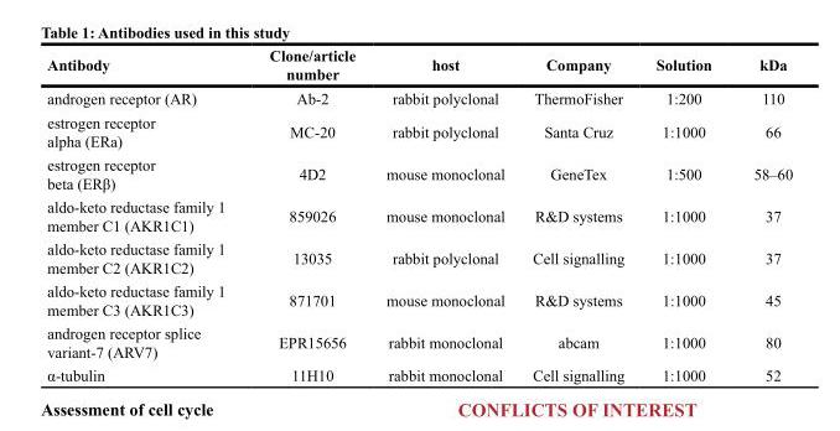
<table><thead><tr><td>Antibody</td><td>Clone/article number</td><td>host</td><td>Company</td><td>Solution</td><td>kDa</td></tr></thead><tbody><tr><td>androgen receptor (AR)</td><td>Ab-2</td><td>rabbit polyclonal</td><td>ThermoFisher</td><td>1:200</td><td>110</td></tr><tr><td>estrogen receptor alpha (ERa)</td><td>MC-20</td><td>rabbit polyclonal</td><td>Santa Cruz</td><td>1:1000</td><td>66</td></tr><tr><td>estrogen receptor beta (ERβ)</td><td>4D2</td><td>mouse monoclonal</td><td>GeneTex</td><td>1:500</td><td>58–60</td></tr><tr><td>aldo-keto reductase family 1 member C1 (AKR1C1)</td><td>859026</td><td>mouse monoclonal</td><td>R&amp;D systems</td><td>1:1000</td><td>37</td></tr><tr><td>aldo-keto reductase family 1 member C2 (AKR1C2)</td><td>13035</td><td>rabbit polyclonal</td><td>Cell signalling</td><td>1:1000</td><td>37</td></tr><tr><td>aldo-keto reductase family 1 member C3 (AKR1C3)</td><td>871701</td><td>mouse monoclonal</td><td>R&amp;D systems</td><td>1:1000</td><td>45</td></tr><tr><td>androgen receptor splice variant-7 (ARV7)</td><td>EPR15656</td><td>rabbit monoclonal</td><td>abcam</td><td>1:1000</td><td>80</td></tr><tr><td>α-tubulin</td><td>11H10</td><td>rabbit monoclonal</td><td>Cell signalling</td><td>1:1000</td><td>52</td></tr></tbody></table>